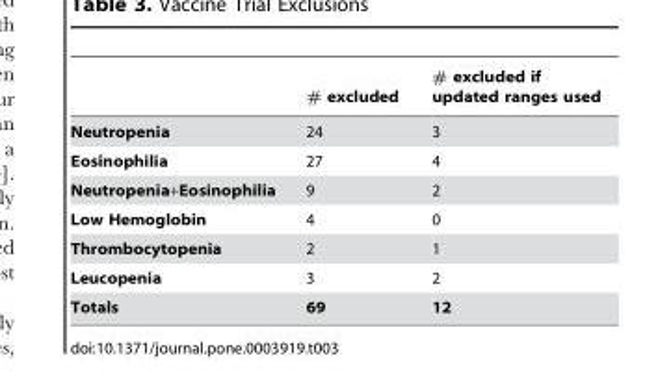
<table><thead><tr><td></td><td># excluded</td><td># excluded if updated ranges used</td></tr></thead><tbody><tr><td>Neutropenia</td><td>24</td><td>3</td></tr><tr><td>Eosinophilia</td><td>27</td><td>4</td></tr><tr><td>Neutropenia+Eosinophilia</td><td>9</td><td>2</td></tr><tr><td>Low Hemoglobin</td><td>4</td><td>0</td></tr><tr><td>Thrombocytopenia</td><td>2</td><td>1</td></tr><tr><td>Leucopenia</td><td>3</td><td>2</td></tr><tr><td>Totals</td><td>69</td><td>12</td></tr></tbody></table>